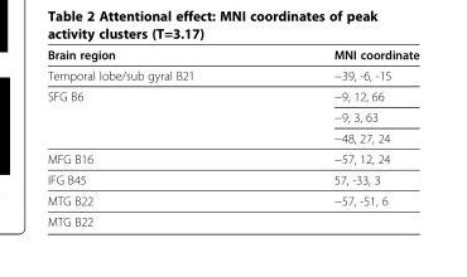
<table><thead><tr><td>Brain region</td><td>MNI coordinate</td></tr></thead><tbody><tr><td>Temporal lobe/sub gyral B21</td><td>−39, -6, -15</td></tr><tr><td rowspan="3">SFG B6</td><td>−9, 12, 66</td></tr><tr><td>−9, 3, 63</td></tr><tr><td>−48, 27, 24</td></tr><tr><td>MFG B16</td><td>−57, 12, 24</td></tr><tr><td>IFG B45</td><td>57, -33, 3</td></tr><tr><td>MTG B22</td><td>−57, -51, 6</td></tr><tr><td>MTG B22</td><td></td></tr></tbody></table>